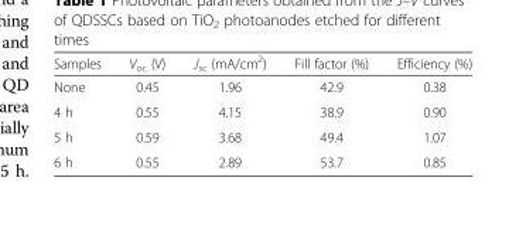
<table><thead><tr><td>Samples</td><td>V<sub>oc</sub> (V)</td><td>J<sub>sc</sub> (mA/cm<sup>2</sup>)</td><td>Fill factor (%)</td><td>Efficiency (%)</td></tr></thead><tbody><tr><td>None</td><td>0.45</td><td>1.96</td><td>42.9</td><td>0.38</td></tr><tr><td>4 h</td><td>0.55</td><td>4.15</td><td>38.9</td><td>0.90</td></tr><tr><td>5 h</td><td>0.59</td><td>3.68</td><td>49.4</td><td>1.07</td></tr><tr><td>6 h</td><td>0.55</td><td>2.89</td><td>53.7</td><td>0.85</td></tr></tbody></table>